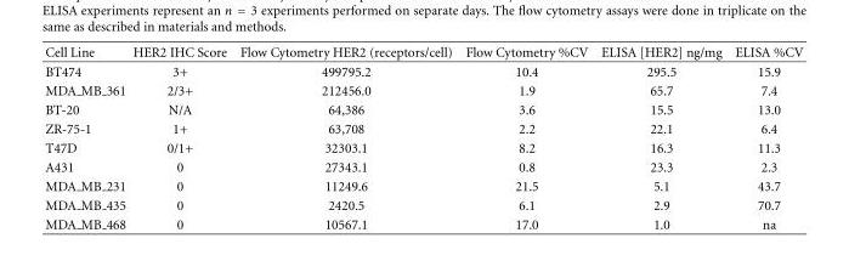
<table><thead><tr><td>Cell Line</td><td>HER2 IHC Score</td><td>Flow Cytometry HER2 (receptors/cell)</td><td>Flow Cytometry %CV</td><td>ELISA [HER2] ng/mg</td><td>ELISA %CV</td></tr></thead><tbody><tr><td>BT474</td><td>3+</td><td>499795.2</td><td>10.4</td><td>295.5</td><td>15.9</td></tr><tr><td>MDA <sub>MB</sub> 361</td><td>2/3+</td><td>212456.0</td><td>1.9</td><td>65.7</td><td>7.4</td></tr><tr><td>BT-20</td><td>N/A</td><td>64,386</td><td>3.6</td><td>15.5</td><td>13.0</td></tr><tr><td>ZR-75-1</td><td>1+</td><td>63,708</td><td>2.2</td><td>22.1</td><td>6.4</td></tr><tr><td>T47D</td><td>0/1+</td><td>32303.1</td><td>8.2</td><td>16.3</td><td>11.3</td></tr><tr><td>A431</td><td>0</td><td>27343.1</td><td>0.8</td><td>23.3</td><td>2.3</td></tr><tr><td>MDA <sub>MB</sub> 231</td><td>0</td><td>11249.6</td><td>21.5</td><td>5.1</td><td>43.7</td></tr><tr><td>MDA <sub>MB</sub> 435</td><td>0</td><td>2420.5</td><td>6.1</td><td>2.9</td><td>70.7</td></tr><tr><td>MDA <sub>MB</sub> 468</td><td>0</td><td>10567.1</td><td>17.0</td><td>1.0</td><td>na</td></tr></tbody></table>